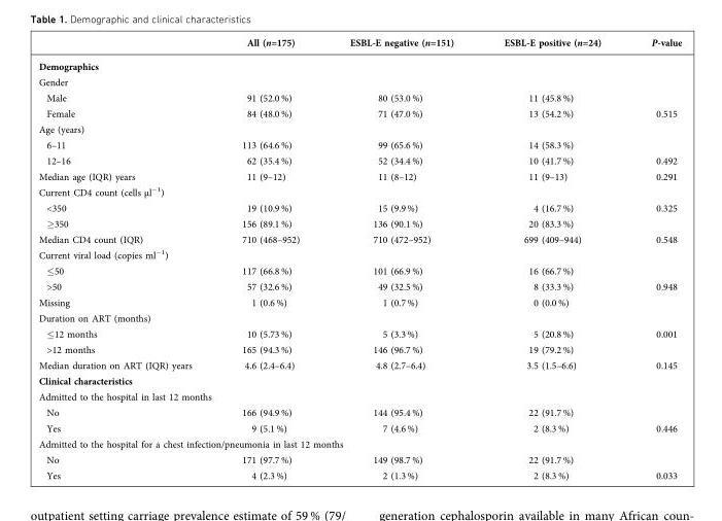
<table><thead><tr><td></td><td>All (n=175)</td><td>ESBL-E negative (n=151)</td><td>ESBL-E positive (n=24)</td><td>P-value</td></tr></thead><tbody><tr><td colspan="5">Demographics</td></tr><tr><td colspan="5">Gender</td></tr><tr><td>Male</td><td>91 (52.0 %)</td><td>80 (53.0 %)</td><td>11 (45.8 %)</td><td></td></tr><tr><td>Female</td><td>84 (48.0 %)</td><td>71 (47.0 %)</td><td>13 (54.2 %)</td><td>0.515</td></tr><tr><td colspan="5">Age (years)</td></tr><tr><td>6–11</td><td>113 (64.6 %)</td><td>99 (65.6 %)</td><td>14 (58.3 %)</td><td></td></tr><tr><td>12–16</td><td>62 (35.4 %)</td><td>52 (34.4 %)</td><td>10 (41.7 %)</td><td>0.492</td></tr><tr><td>Median age (IQR) years</td><td>11 (9–12)</td><td>11 (8–12)</td><td>11 (9–13)</td><td>0.291</td></tr><tr><td colspan="5">Current CD4 count (cells µl<sup>−1</sup>)</td></tr><tr><td>&lt;350</td><td>19 (10.9 %)</td><td>15 (9.9 %)</td><td>4 (16.7 %)</td><td>0.325</td></tr><tr><td>≥350</td><td>156 (89.1 %)</td><td>136 (90.1 %)</td><td>20 (83.3 %)</td><td></td></tr><tr><td>Median CD4 count (IQR)</td><td>710 (468–952)</td><td>710 (472–952)</td><td>699 (409–944)</td><td>0.548</td></tr><tr><td colspan="5">Current viral load (copies ml<sup>−1</sup>)</td></tr><tr><td>≤50</td><td>117 (66.8 %)</td><td>101 (66.9 %)</td><td>16 (66.7 %)</td><td></td></tr><tr><td>&gt;50</td><td>57 (32.6 %)</td><td>49 (32.5 %)</td><td>8 (33.3 %)</td><td>0.948</td></tr><tr><td>Missing</td><td>1 (0.6 %)</td><td>1 (0.7 %)</td><td>0 (0.0 %)</td><td></td></tr><tr><td colspan="5">Duration on ART (months)</td></tr><tr><td>≤12 months</td><td>10 (5.73 %)</td><td>5 (3.3 %)</td><td>5 (20.8 %)</td><td>0.001</td></tr><tr><td>&gt;12 months</td><td>165 (94.3 %)</td><td>146 (96.7 %)</td><td>19 (79.2 %)</td><td></td></tr><tr><td>Median duration on ART (IQR) years</td><td>4.6 (2.4–6.4)</td><td>4.8 (2.7–6.4)</td><td>3.5 (1.5–6.6)</td><td>0.145</td></tr><tr><td colspan="5">Clinical characteristics</td></tr><tr><td colspan="5">Admitted to the hospital in last 12 months</td></tr><tr><td>No</td><td>166 (94.9 %)</td><td>144 (95.4 %)</td><td>22 (91.7 %)</td><td></td></tr><tr><td>Yes</td><td>9 (5.1 %)</td><td>7 (4.6 %)</td><td>2 (8.3 %)</td><td>0.446</td></tr><tr><td colspan="5">Admitted to the hospital for a chest infection/pneumonia in last 12 months</td></tr><tr><td>No</td><td>171 (97.7 %)</td><td>149 (98.7 %)</td><td>22 (91.7 %)</td><td></td></tr><tr><td>Yes</td><td>4 (2.3 %)</td><td>2 (1.3 %)</td><td>2 (8.3 %)</td><td>0.033</td></tr></tbody></table>